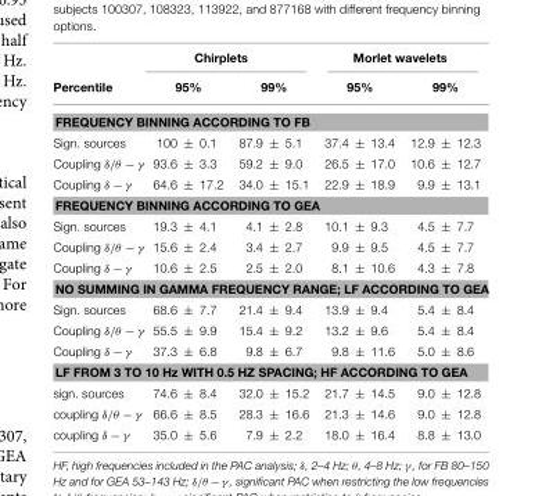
<table><thead><tr><td rowspan="2">Percentile</td><td colspan="2">Chirplets</td><td colspan="2">Morlet wavelets</td></tr><tr><td>95%</td><td>99%</td><td>95%</td><td>99%</td></tr></thead><tbody><tr><td colspan="5">FREQUENCY BINNING ACCORDING TO FB</td></tr><tr><td>Sign. sources</td><td>100 ± 0.1</td><td>87.9 ± 5.1</td><td>37.4 ± 13.4</td><td>12.9 ± 12.3</td></tr><tr><td>Coupling δ/θ − γ</td><td>93.6 ± 3.3</td><td>59.2 ± 9.0</td><td>26.5 ± 17.0</td><td>10.6 ± 12.7</td></tr><tr><td>Coupling δ − γ</td><td>64.6 ± 17.2</td><td>34.0 ± 15.1</td><td>22.9 ± 18.9</td><td>9.9 ± 13.1</td></tr><tr><td colspan="5">FREQUENCY BINNING ACCORDING TO GEA</td></tr><tr><td>Sign. sources</td><td>19.3 ± 4.1</td><td>4.1 ± 2.8</td><td>10.1 ± 9.3</td><td>4.5 ± 7.7</td></tr><tr><td>Coupling δ/θ − γ</td><td>15.6 ± 2.4</td><td>3.4 ± 2.7</td><td>9.9 ± 9.5</td><td>4.5 ± 7.7</td></tr><tr><td>Coupling δ − γ</td><td>10.6 ± 2.5</td><td>2.5 ± 2.0</td><td>8.1 ± 10.6</td><td>4.3 ± 7.8</td></tr><tr><td colspan="5">NO SUMMING IN GAMMA FREQUENCY RANGE; LF ACCORDING TO GEA</td></tr><tr><td>Sign. sources</td><td>68.6 ± 7.7</td><td>21.4 ± 9.4</td><td>13.9 ± 9.4</td><td>5.4 ± 8.4</td></tr><tr><td>Coupling δ/θ − γ</td><td>55.5 ± 9.9</td><td>15.4 ± 9.2</td><td>13.2 ± 9.6</td><td>5.4 ± 8.4</td></tr><tr><td>Coupling δ − γ</td><td>37.3 ± 6.8</td><td>9.8 ± 6.7</td><td>9.8 ± 11.6</td><td>5.0 ± 8.6</td></tr><tr><td colspan="5">LF FROM 3 TO 10 Hz WITH 0.5 HZ SPACING; HF ACCORDING TO GEA</td></tr><tr><td>sign. sources</td><td>74.6 ± 8.4</td><td>32.0 ± 15.2</td><td>21.7 ± 14.5</td><td>9.0 ± 12.8</td></tr><tr><td>coupling δ/θ − γ</td><td>66.6 ± 8.5</td><td>28.3 ± 16.6</td><td>21.3 ± 14.6</td><td>9.0 ± 12.8</td></tr><tr><td>coupling δ − γ</td><td>35.0 ± 5.6</td><td>7.9 ± 2.2</td><td>18.0 ± 16.4</td><td>8.8 ± 13.0</td></tr></tbody></table>